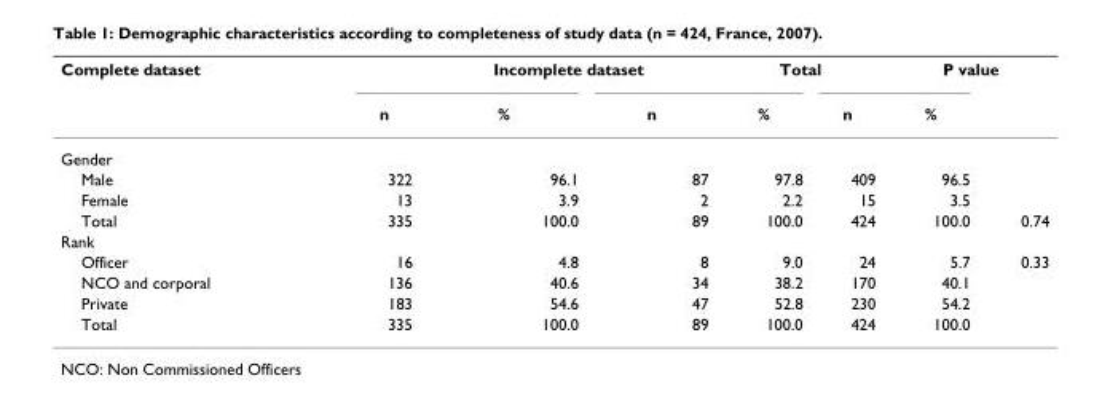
<table><thead><tr><td colspan="2">Complete dataset</td><td colspan="2">Incomplete dataset</td><td colspan="2">Total</td><td colspan="2">P value</td></tr><tr><td></td><td>n</td><td>%</td><td>n</td><td>%</td><td>n</td><td>%</td><td></td></tr></thead><tbody><tr><td colspan="8">Gender</td></tr><tr><td>Male</td><td>322</td><td>96.1</td><td>87</td><td>97.8</td><td>409</td><td>96.5</td><td></td></tr><tr><td>Female</td><td>13</td><td>3.9</td><td>2</td><td>2.2</td><td>15</td><td>3.5</td><td></td></tr><tr><td>Total</td><td>335</td><td>100.0</td><td>89</td><td>100.0</td><td>424</td><td>100.0</td><td>0.74</td></tr><tr><td colspan="8">Rank</td></tr><tr><td>Officer</td><td>16</td><td>4.8</td><td>8</td><td>9.0</td><td>24</td><td>5.7</td><td>0.33</td></tr><tr><td>NCO and corporal</td><td>136</td><td>40.6</td><td>34</td><td>38.2</td><td>170</td><td>40.1</td><td></td></tr><tr><td>Private</td><td>183</td><td>54.6</td><td>47</td><td>52.8</td><td>230</td><td>54.2</td><td></td></tr><tr><td>Total</td><td>335</td><td>100.0</td><td>89</td><td>100.0</td><td>424</td><td>100.0</td><td></td></tr></tbody></table>